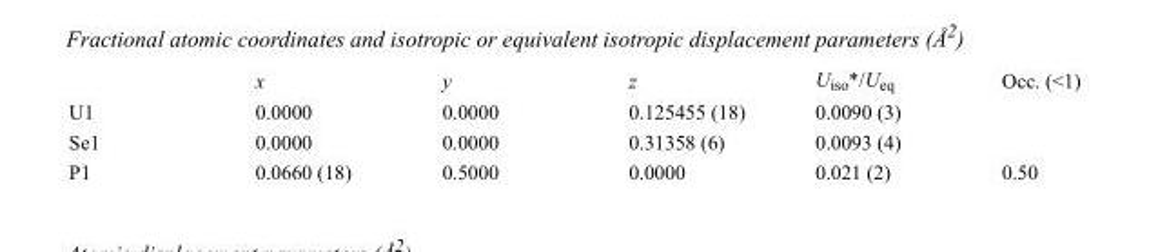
<table><thead><tr><td></td><td>x</td><td>y</td><td>z</td><td>U<sub>iso</sub>*/U<sub>eq</sub></td><td>Occ. (&lt;1)</td></tr></thead><tbody><tr><td>U1</td><td>0.0000</td><td>0.0000</td><td>0.125455 (18)</td><td>0.0090 (3)</td><td></td></tr><tr><td>Se1</td><td>0.0000</td><td>0.0000</td><td>0.31358 (6)</td><td>0.0093 (4)</td><td></td></tr><tr><td>P1</td><td>0.0660 (18)</td><td>0.5000</td><td>0.0000</td><td>0.021 (2)</td><td>0.50</td></tr></tbody></table>